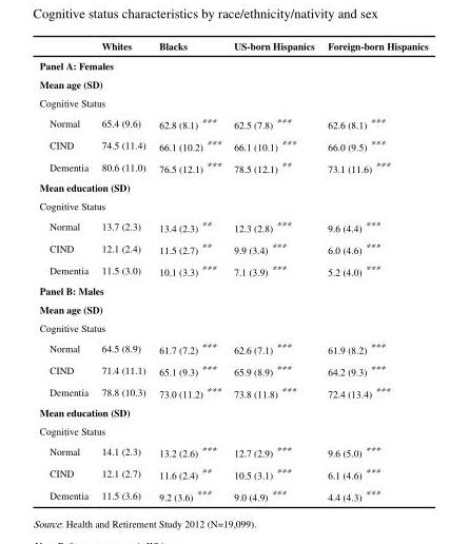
<table><thead><tr><td></td><td>Whites</td><td>Blacks</td><td>US-born Hispanics</td><td>Foreign-born Hispanics</td></tr></thead><tbody><tr><td colspan="5">Panel A: Females</td></tr><tr><td colspan="5">Mean age (SD)</td></tr><tr><td colspan="5">Cognitive Status</td></tr><tr><td>Normal</td><td>65.4 (9.6)</td><td>62.8 (8.1) ***</td><td>62.5 (7.8) ***</td><td>62.6 (8.1) ***</td></tr><tr><td>CIND</td><td>74.5 (11.4)</td><td>66.1 (10.2) ***</td><td>66.1 (10.1) ***</td><td>66.0 (9.5) ***</td></tr><tr><td>Dementia</td><td>80.6 (11.0)</td><td>76.5 (12.1) ***</td><td>78.5 (12.1) **</td><td>73.1 (11.6) ***</td></tr><tr><td colspan="5">Mean education (SD)</td></tr><tr><td colspan="5">Cognitive Status</td></tr><tr><td>Normal</td><td>13.7 (2.3)</td><td>13.4 (2.3) **</td><td>12.3 (2.8) ***</td><td>9.6 (4.4) ***</td></tr><tr><td>CIND</td><td>12.1 (2.4)</td><td>11.5 (2.7) **</td><td>9.9 (3.4) ***</td><td>6.0 (4.6) ***</td></tr><tr><td>Dementia</td><td>11.5 (3.0)</td><td>10.1 (3.3) ***</td><td>7.1 (3.9) ***</td><td>5.2 (4.0) ***</td></tr><tr><td colspan="5">Panel B: Males</td></tr><tr><td colspan="5">Mean age (SD)</td></tr><tr><td colspan="5">Cognitive Status</td></tr><tr><td>Normal</td><td>64.5 (8.9)</td><td>61.7 (7.2) ***</td><td>62.6 (7.1) ***</td><td>61.9 (8.2) ***</td></tr><tr><td>CIND</td><td>71.4 (11.1)</td><td>65.1 (9.3) ***</td><td>65.9 (8.9) ***</td><td>64.2 (9.3) ***</td></tr><tr><td>Dementia</td><td>78.8 (10.3)</td><td>73.0 (11.2) ***</td><td>73.8 (11.8) ***</td><td>72.4 (13.4) ***</td></tr><tr><td colspan="5">Mean education (SD)</td></tr><tr><td colspan="5">Cognitive Status</td></tr><tr><td>Normal</td><td>14.1 (2.3)</td><td>13.2 (2.6) ***</td><td>12.7 (2.9) ***</td><td>9.6 (5.0) ***</td></tr><tr><td>CIND</td><td>12.1 (2.7)</td><td>11.6 (2.4) **</td><td>10.5 (3.1) ***</td><td>6.1 (4.6) ***</td></tr><tr><td>Dementia</td><td>11.5 (3.6)</td><td>9.2 (3.6) ***</td><td>9.0 (4.9) ***</td><td>4.4 (4.3) ***</td></tr></tbody></table>